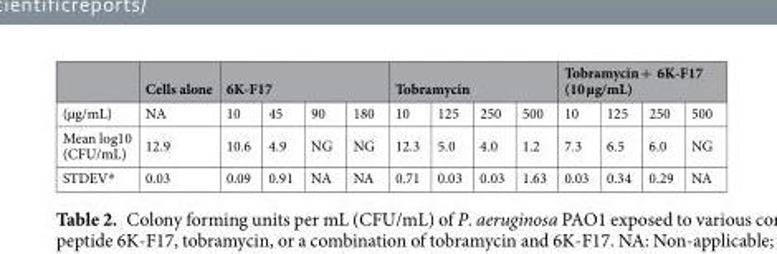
<table><thead><tr><td rowspan="2">(µg/mL)</td><td rowspan="2">Cells alone NA</td><td colspan="4">6K-F17</td><td colspan="4">Tobramycin</td><td colspan="4">Tobramycin + 6K-F17 (10 µg/mL)</td></tr><tr><td>10</td><td>45</td><td>90</td><td>180</td><td>10</td><td>125</td><td>250</td><td>500</td><td>10</td><td>125</td><td>250</td><td>500</td></tr></thead><tbody><tr><td>Mean log10 (CFU/mL)</td><td>12.9</td><td>10.6</td><td>4.9</td><td>NG</td><td>NG</td><td>12.3</td><td>5.0</td><td>4.0</td><td>1.2</td><td>7.3</td><td>6.5</td><td>6.0</td><td>NG</td></tr><tr><td>STDEV*</td><td>0.03</td><td>0.09</td><td>0.91</td><td>NA</td><td>NA</td><td>0.71</td><td>0.03</td><td>0.03</td><td>1.63</td><td>0.03</td><td>0.34</td><td>0.29</td><td>NA</td></tr></tbody></table>